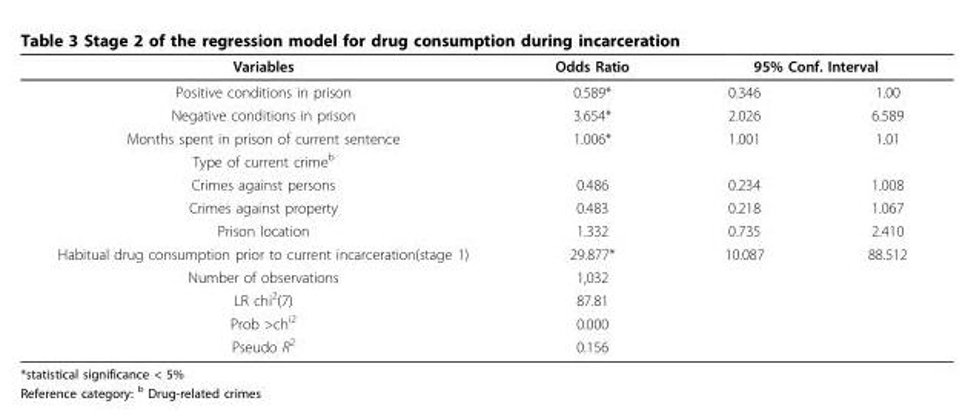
<table><thead><tr><td rowspan="2">Variables Positive conditions in prison</td><td rowspan="2">Odds Ratio 0.589*</td><td colspan="2">95% Conf. Interval</td></tr><tr><td>0.346</td><td>1.00</td></tr></thead><tbody><tr><td>Negative conditions in prison</td><td>3.654*</td><td>2.026</td><td>6.589</td></tr><tr><td>Months spent in prison of current sentence</td><td>1.006*</td><td>1.001</td><td>1.01</td></tr><tr><td colspan="4">Type of current crime<sup>b</sup></td></tr><tr><td>Crimes against persons</td><td>0.486</td><td>0.234</td><td>1.008</td></tr><tr><td>Crimes against property</td><td>0.483</td><td>0.218</td><td>1.067</td></tr><tr><td>Prison location</td><td>1.332</td><td>0.735</td><td>2.410</td></tr><tr><td>Habitual drug consumption prior to current incarceration(stage 1)</td><td>29.877*</td><td>10.087</td><td>88.512</td></tr><tr><td>Number of observations</td><td>1,032</td><td></td><td></td></tr><tr><td>LR chi<sup>2</sup>(7)</td><td>87.81</td><td></td><td></td></tr><tr><td>Prob &gt;ch<sup>i2</sup></td><td>0.000</td><td></td><td></td></tr><tr><td>Pseudo R<sup>2</sup></td><td>0.156</td><td></td><td></td></tr></tbody></table>